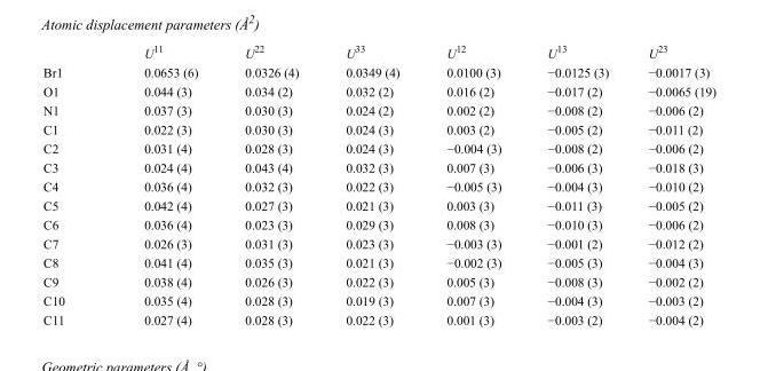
<table><thead><tr><td></td><td>U<sup>11</sup></td><td>U<sup>22</sup></td><td>U<sup>33</sup></td><td>U<sup>12</sup></td><td>U<sup>13</sup></td><td>U<sup>23</sup></td></tr></thead><tbody><tr><td>Br1</td><td>0.0653 (6)</td><td>0.0326 (4)</td><td>0.0349 (4)</td><td>0.0100 (3)</td><td>−0.0125 (3)</td><td>−0.0017 (3)</td></tr><tr><td>O1</td><td>0.044 (3)</td><td>0.034 (2)</td><td>0.032 (2)</td><td>0.016 (2)</td><td>−0.017 (2)</td><td>−0.0065 (19)</td></tr><tr><td>N1</td><td>0.037 (3)</td><td>0.030 (3)</td><td>0.024 (2)</td><td>0.002 (2)</td><td>−0.008 (2)</td><td>−0.006 (2)</td></tr><tr><td>C1</td><td>0.022 (3)</td><td>0.030 (3)</td><td>0.024 (3)</td><td>0.003 (2)</td><td>−0.005 (2)</td><td>−0.011 (2)</td></tr><tr><td>C2</td><td>0.031 (4)</td><td>0.028 (3)</td><td>0.024 (3)</td><td>−0.004 (3)</td><td>−0.008 (2)</td><td>−0.006 (2)</td></tr><tr><td>C3</td><td>0.024 (4)</td><td>0.043 (4)</td><td>0.032 (3)</td><td>0.007 (3)</td><td>−0.006 (3)</td><td>−0.018 (3)</td></tr><tr><td>C4</td><td>0.036 (4)</td><td>0.032 (3)</td><td>0.022 (3)</td><td>−0.005 (3)</td><td>−0.004 (3)</td><td>−0.010 (2)</td></tr><tr><td>C5</td><td>0.042 (4)</td><td>0.027 (3)</td><td>0.021 (3)</td><td>0.003 (3)</td><td>−0.011 (3)</td><td>−0.005 (2)</td></tr><tr><td>C6</td><td>0.036 (4)</td><td>0.023 (3)</td><td>0.029 (3)</td><td>0.008 (3)</td><td>−0.010 (3)</td><td>−0.006 (2)</td></tr><tr><td>C7</td><td>0.026 (3)</td><td>0.031 (3)</td><td>0.023 (3)</td><td>−0.003 (3)</td><td>−0.001 (2)</td><td>−0.012 (2)</td></tr><tr><td>C8</td><td>0.041 (4)</td><td>0.035 (3)</td><td>0.021 (3)</td><td>−0.002 (3)</td><td>−0.005 (3)</td><td>−0.004 (3)</td></tr><tr><td>C9</td><td>0.038 (4)</td><td>0.026 (3)</td><td>0.022 (3)</td><td>0.005 (3)</td><td>−0.008 (3)</td><td>−0.002 (2)</td></tr><tr><td>C10</td><td>0.035 (4)</td><td>0.028 (3)</td><td>0.019 (3)</td><td>0.007 (3)</td><td>−0.004 (3)</td><td>−0.003 (2)</td></tr><tr><td>C11</td><td>0.027 (4)</td><td>0.028 (3)</td><td>0.022 (3)</td><td>0.001 (3)</td><td>−0.003 (2)</td><td>−0.004 (2)</td></tr></tbody></table>